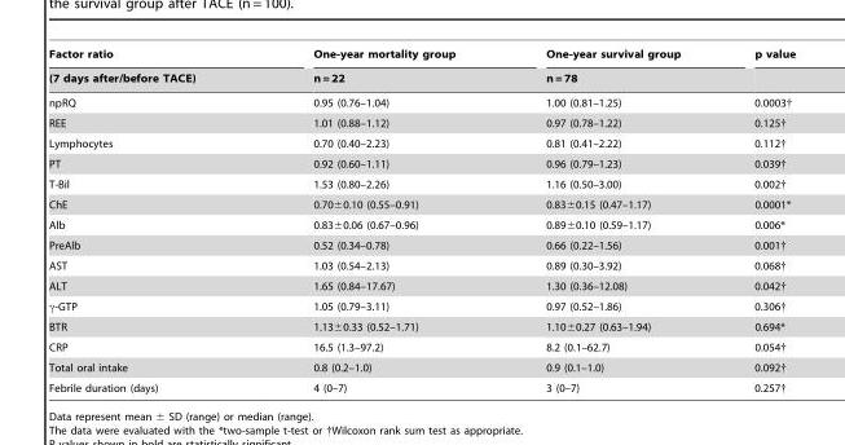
<table><thead><tr><td rowspan="2">Factor ratio (7 days after/before TACE)</td><td rowspan="2">One-year mortality group n = 22</td><td rowspan="2">One-year survival group n = 78</td><td rowspan="2">p value</td></tr><tr></tr></thead><tbody><tr><td>npRQ</td><td>0.95 (0.76–1.04)</td><td>1.00 (0.81–1.25)</td><td>0.0003†</td></tr><tr><td>REE</td><td>1.01 (0.88–1.12)</td><td>0.97 (0.78–1.22)</td><td>0.125†</td></tr><tr><td>Lymphocytes</td><td>0.70 (0.40–2.23)</td><td>0.81 (0.41–2.22)</td><td>0.112†</td></tr><tr><td>PT</td><td>0.92 (0.60–1.11)</td><td>0.96 (0.79–1.23)</td><td>0.039†</td></tr><tr><td>T-Bil</td><td>1.53 (0.80–2.26)</td><td>1.16 (0.50–3.00)</td><td>0.002†</td></tr><tr><td>ChE</td><td>0.70±0.10 (0.55–0.91)</td><td>0.83±0.15 (0.47–1.17)</td><td>0.0001*</td></tr><tr><td>Alb</td><td>0.83±0.06 (0.67–0.96)</td><td>0.89±0.10 (0.59–1.17)</td><td>0.006*</td></tr><tr><td>PreAlb</td><td>0.52 (0.34–0.78)</td><td>0.66 (0.22–1.56)</td><td>0.001†</td></tr><tr><td>AST</td><td>1.03 (0.54–2.13)</td><td>0.89 (0.30–3.92)</td><td>0.068†</td></tr><tr><td>ALT</td><td>1.65 (0.84–17.67)</td><td>1.30 (0.36–12.08)</td><td>0.042†</td></tr><tr><td>γ-GTP</td><td>1.05 (0.79–3.11)</td><td>0.97 (0.52–1.86)</td><td>0.306†</td></tr><tr><td>BTR</td><td>1.13±0.33 (0.52–1.71)</td><td>1.10±0.27 (0.63–1.94)</td><td>0.694*</td></tr><tr><td>CRP</td><td>16.5 (1.3–97.2)</td><td>8.2 (0.1–62.7)</td><td>0.054†</td></tr><tr><td>Total oral intake</td><td>0.8 (0.2–1.0)</td><td>0.9 (0.1–1.0)</td><td>0.092†</td></tr><tr><td>Febrile duration (days)</td><td>4 (0–7)</td><td>3 (0–7)</td><td>0.257†</td></tr></tbody></table>